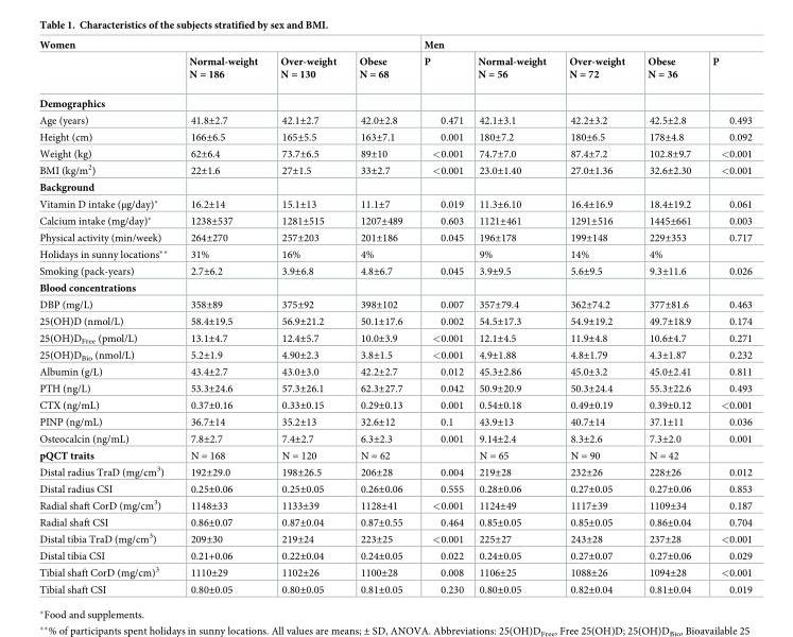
<table><thead><tr><td colspan="4">Women</td><td colspan="5">Men</td></tr><tr><td></td><td>Normal-weight N = 186</td><td>Over-weight N = 130</td><td>Obese N = 68</td><td>P</td><td>Normal-weight N = 56</td><td>Over-weight N = 72</td><td>Obese N = 36</td><td>P</td></tr></thead><tbody><tr><td colspan="9">Demographics</td></tr><tr><td>Age (years)</td><td>41.8±2.7</td><td>42.1±2.7</td><td>42.0±2.8</td><td>0.471</td><td>42.1±3.1</td><td>42.2±3.2</td><td>42.5±2.8</td><td>0.493</td></tr><tr><td>Height (cm)</td><td>166±6.5</td><td>165±5.5</td><td>163±7.1</td><td>0.001</td><td>180±7.2</td><td>180±6.5</td><td>178±4.8</td><td>0.092</td></tr><tr><td>Weight (kg)</td><td>62±6.4</td><td>73.7±6.5</td><td>89±10</td><td>&lt;0.001</td><td>74.7±7.0</td><td>87.4±7.2</td><td>102.8±9.7</td><td>&lt;0.001</td></tr><tr><td>BMI (kg/m<sup>2</sup>)</td><td>22±1.6</td><td>27±1.5</td><td>33±2.7</td><td>&lt;0.001</td><td>23.0±1.40</td><td>27.0±1.36</td><td>32.6±2.30</td><td>&lt;0.001</td></tr><tr><td colspan="9">Background</td></tr><tr><td>Vitamin D intake (μg/day)*</td><td>16.2±14</td><td>15.1±13</td><td>11.1±7</td><td>0.019</td><td>11.3±6.10</td><td>16.4±16.9</td><td>18.4±19.2</td><td>0.061</td></tr><tr><td>Calcium intake (mg/day)*</td><td>1238±537</td><td>1281±515</td><td>1207±489</td><td>0.603</td><td>1121±461</td><td>1291±516</td><td>1445±661</td><td>0.003</td></tr><tr><td>Physical activity (min/week)</td><td>264±270</td><td>257±203</td><td>201±186</td><td>0.045</td><td>196±178</td><td>199±148</td><td>229±353</td><td>0.717</td></tr><tr><td>Holidays in sunny locations**</td><td>31%</td><td>16%</td><td>4%</td><td></td><td>9%</td><td>14%</td><td>4%</td><td></td></tr><tr><td>Smoking (pack-years)</td><td>2.7±6.2</td><td>3.9±6.8</td><td>4.8±6.7</td><td>0.045</td><td>3.9±9.5</td><td>5.6±9.5</td><td>9.3±11.6</td><td>0.026</td></tr><tr><td colspan="9">Blood concentrations</td></tr><tr><td>DBP (mg/L)</td><td>358±89</td><td>375±92</td><td>398±102</td><td>0.007</td><td>357±79.4</td><td>362±74.2</td><td>377±81.6</td><td>0.463</td></tr><tr><td>25(OH)D (nmol/L)</td><td>58.4±19.5</td><td>56.9±21.2</td><td>50.1±17.6</td><td>0.002</td><td>54.5±17.3</td><td>54.9±19.2</td><td>49.7±18.9</td><td>0.174</td></tr><tr><td>25(OH)D<sub>Free</sub> (pmol/L)</td><td>13.1±4.7</td><td>12.4±5.7</td><td>10.0±3.9</td><td>&lt;0.001</td><td>12.1±4.5</td><td>11.9±4.8</td><td>10.6±4.7</td><td>0.271</td></tr><tr><td>25(OH)D<sub>Bio</sub> (nmol/L)</td><td>5.2±1.9</td><td>4.90±2.3</td><td>3.8±1.5</td><td>&lt;0.001</td><td>4.9±1.88</td><td>4.8±1.79</td><td>4.3±1.87</td><td>0.232</td></tr><tr><td>Albumin (g/L)</td><td>43.4±2.7</td><td>43.0±3.0</td><td>42.2±2.7</td><td>0.012</td><td>45.3±2.86</td><td>45.0±3.2</td><td>45.0±2.41</td><td>0.811</td></tr><tr><td>PTH (ng/L)</td><td>53.3±24.6</td><td>57.3±26.1</td><td>62.3±27.7</td><td>0.042</td><td>50.9±20.9</td><td>50.3±24.4</td><td>55.3±22.6</td><td>0.493</td></tr><tr><td>CTX (ng/mL)</td><td>0.37±0.16</td><td>0.33±0.15</td><td>0.29±0.13</td><td>0.001</td><td>0.54±0.18</td><td>0.49±0.19</td><td>0.39±0.12</td><td>&lt;0.001</td></tr><tr><td>PINP (ng/mL)</td><td>36.7±14</td><td>35.2±13</td><td>32.6±12</td><td>0.1</td><td>43.9±13</td><td>40.7±14</td><td>37.1±11</td><td>0.036</td></tr><tr><td>Osteocalcin (ng/mL)</td><td>7.8±2.7</td><td>7.4±2.7</td><td>6.3±2.3</td><td>0.001</td><td>9.14±2.4</td><td>8.3±2.6</td><td>7.3±2.0</td><td>0.001</td></tr><tr><td>pQCT traits</td><td>N = 168</td><td>N = 120</td><td>N = 62</td><td></td><td>N = 65</td><td>N = 90</td><td>N = 42</td><td></td></tr><tr><td>Distal radius TraD (mg/cm<sup>3</sup>)</td><td>192±29.0</td><td>198±26.5</td><td>206±28</td><td>0.004</td><td>219±28</td><td>232±26</td><td>228±26</td><td>0.012</td></tr><tr><td>Distal radius CSI</td><td>0.25±0.06</td><td>0.25±0.05</td><td>0.26±0.06</td><td>0.555</td><td>0.28±0.06</td><td>0.27±0.05</td><td>0.27±0.06</td><td>0.853</td></tr><tr><td>Radial shaft CorD (mg/cm<sup>3</sup>)</td><td>1148±33</td><td>1133±39</td><td>1128±41</td><td>&lt;0.001</td><td>1124±49</td><td>1117±39</td><td>1109±34</td><td>0.187</td></tr><tr><td>Radial shaft CSI</td><td>0.86±0.07</td><td>0.87±0.04</td><td>0.87±0.55</td><td>0.464</td><td>0.85±0.05</td><td>0.85±0.05</td><td>0.86±0.04</td><td>0.704</td></tr><tr><td>Distal tibia TraD (mg/cm<sup>3</sup>)</td><td>209±30</td><td>219±24</td><td>223±25</td><td>&lt;0.001</td><td>225±27</td><td>243±28</td><td>237±28</td><td>&lt;0.001</td></tr><tr><td>Distal tibia CSI</td><td>0.21+0.06</td><td>0.22±0.04</td><td>0.24±0.05</td><td>0.022</td><td>0.24±0.05</td><td>0.27±0.07</td><td>0.27±0.06</td><td>0.029</td></tr><tr><td>Tibial shaft CorD (mg/cm)<sup>3</sup></td><td>1110±29</td><td>1102±26</td><td>1100±28</td><td>0.008</td><td>1106±25</td><td>1088±26</td><td>1094±28</td><td>&lt;0.001</td></tr><tr><td>Tibial shaft CSI</td><td>0.80±0.05</td><td>0.80±0.05</td><td>0.81±0.05</td><td>0.230</td><td>0.80±0.05</td><td>0.82±0.04</td><td>0.81±0.04</td><td>0.019</td></tr></tbody></table>